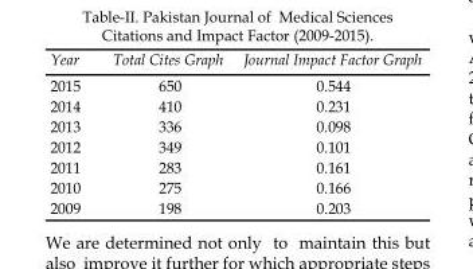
<table><thead><tr><td>Year</td><td>Total Cites Graph</td><td>Journal Impact Factor Graph</td></tr></thead><tbody><tr><td>2015</td><td>650</td><td>0.544</td></tr><tr><td>2014</td><td>410</td><td>0.231</td></tr><tr><td>2013</td><td>336</td><td>0.098</td></tr><tr><td>2012</td><td>349</td><td>0.101</td></tr><tr><td>2011</td><td>283</td><td>0.161</td></tr><tr><td>2010</td><td>275</td><td>0.166</td></tr><tr><td>2009</td><td>198</td><td>0.203</td></tr></tbody></table>